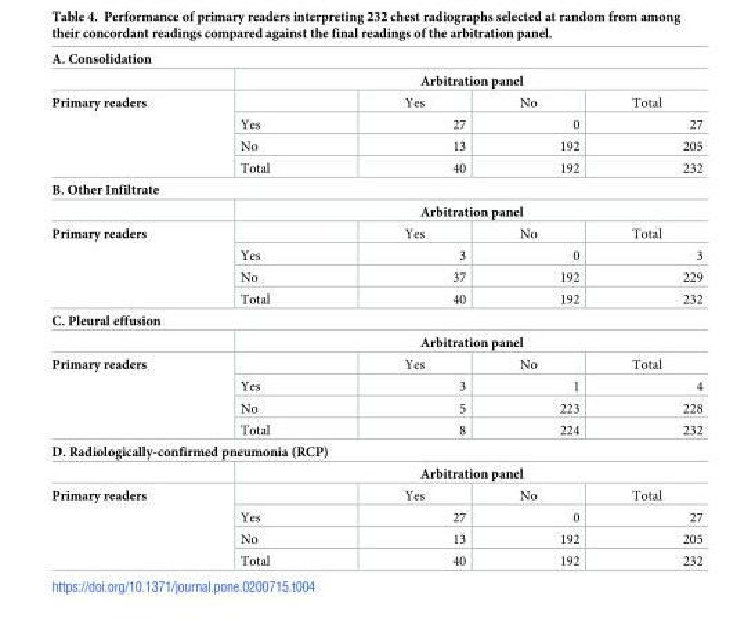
<table><tbody><tr><td colspan="5">A. Consolidation</td></tr><tr><td></td><td colspan="4">Arbitration panel</td></tr><tr><td rowspan="4">Primary readers</td><td></td><td>Yes</td><td>No</td><td>Total</td></tr><tr><td>Yes</td><td>27</td><td>0</td><td>27</td></tr><tr><td>No</td><td>13</td><td>192</td><td>205</td></tr><tr><td>Total</td><td>40</td><td>192</td><td>232</td></tr><tr><td colspan="5">B. Other Infiltrate</td></tr><tr><td></td><td colspan="4">Arbitration panel</td></tr><tr><td rowspan="4">Primary readers</td><td></td><td>Yes</td><td>No</td><td>Total</td></tr><tr><td>Yes</td><td>3</td><td>0</td><td>3</td></tr><tr><td>No</td><td>37</td><td>192</td><td>229</td></tr><tr><td>Total</td><td>40</td><td>192</td><td>232</td></tr><tr><td colspan="5">C. Pleural effusion</td></tr><tr><td></td><td colspan="4">Arbitration panel</td></tr><tr><td rowspan="4">Primary readers</td><td></td><td>Yes</td><td>No</td><td>Total</td></tr><tr><td>Yes</td><td>3</td><td>1</td><td>4</td></tr><tr><td>No</td><td>5</td><td>223</td><td>228</td></tr><tr><td>Total</td><td>8</td><td>224</td><td>232</td></tr><tr><td colspan="5">D. Radiologically-confirmed pneumonia (RCP)</td></tr><tr><td></td><td colspan="4">Arbitration panel</td></tr><tr><td rowspan="4">Primary readers</td><td></td><td>Yes</td><td>No</td><td>Total</td></tr><tr><td>Yes</td><td>27</td><td>0</td><td>27</td></tr><tr><td>No</td><td>13</td><td>192</td><td>205</td></tr><tr><td>Total</td><td>40</td><td>192</td><td>232</td></tr></tbody></table>